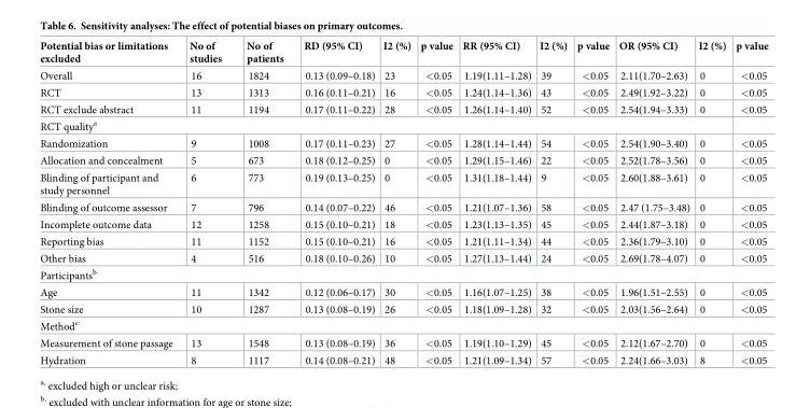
<table><thead><tr><td>Potential bias or limitations excluded</td><td>No of studies</td><td>No of patients</td><td>RD (95% CI)</td><td>I2 (%)</td><td>p value</td><td>RR (95% CI)</td><td>I2 (%)</td><td>p value</td><td>OR (95% CI)</td><td>I2 (%)</td><td>p value</td></tr></thead><tbody><tr><td>Overall</td><td>16</td><td>1824</td><td>0.13 (0.09–0.18)</td><td>23</td><td>&lt;0.05</td><td>1.19(1.11–1.28)</td><td>39</td><td>&lt;0.05</td><td>2.11(1.70–2.63)</td><td>0</td><td>&lt;0.05</td></tr><tr><td>RCT</td><td>13</td><td>1313</td><td>0.16 (0.11–0.21)</td><td>16</td><td>&lt;0.05</td><td>1.24(1.14–1.36)</td><td>43</td><td>&lt;0.05</td><td>2.49(1.92–3.22)</td><td>0</td><td>&lt;0.05</td></tr><tr><td>RCT exclude abstract</td><td>11</td><td>1194</td><td>0.17 (0.11–0.22)</td><td>28</td><td>&lt;0.05</td><td>1.26(1.14–1.40)</td><td>52</td><td>&lt;0.05</td><td>2.54(1.94–3.33)</td><td>0</td><td>&lt;0.05</td></tr><tr><td colspan="12">RCT quality<sup>a</sup></td></tr><tr><td>Randomization</td><td>9</td><td>1008</td><td>0.17 (0.11–0.23)</td><td>27</td><td>&lt;0.05</td><td>1.28(1.14–1.44)</td><td>54</td><td>&lt;0.05</td><td>2.54(1.90–3.40)</td><td>0</td><td>&lt;0.05</td></tr><tr><td>Allocation and concealment</td><td>5</td><td>673</td><td>0.18 (0.12–0.25)</td><td>0</td><td>&lt;0.05</td><td>1.29(1.15–1.46)</td><td>22</td><td>&lt;0.05</td><td>2.52(1.78–3.56)</td><td>0</td><td>&lt;0.05</td></tr><tr><td>Blinding of participant and study personnel</td><td>6</td><td>773</td><td>0.19 (0.13–0.25)</td><td>0</td><td>&lt;0.05</td><td>1.31(1.18–1.44)</td><td>9</td><td>&lt;0.05</td><td>2.60(1.88–3.61)</td><td>0</td><td>&lt;0.05</td></tr><tr><td>Blinding of outcome assessor</td><td>7</td><td>796</td><td>0.14 (0.07–0.22)</td><td>46</td><td>&lt;0.05</td><td>1.21(1.07–1.36)</td><td>58</td><td>&lt;0.05</td><td>2.47 (1.75–3.48)</td><td>0</td><td>&lt;0.05</td></tr><tr><td>Incomplete outcome data</td><td>12</td><td>1258</td><td>0.15 (0.10–0.21)</td><td>18</td><td>&lt;0.05</td><td>1.23(1.13–1.35)</td><td>45</td><td>&lt;0.05</td><td>2.44(1.87–3.18)</td><td>0</td><td>&lt;0.05</td></tr><tr><td>Reporting bias</td><td>11</td><td>1152</td><td>0.15 (0.10–0.21)</td><td>16</td><td>&lt;0.05</td><td>1.21(1.11–1.34)</td><td>44</td><td>&lt;0.05</td><td>2.36(1.79–3.10)</td><td>0</td><td>&lt;0.05</td></tr><tr><td>Other bias</td><td>4</td><td>516</td><td>0.18 (0.10–0.26)</td><td>10</td><td>&lt;0.05</td><td>1.27(1.13–1.44)</td><td>24</td><td>&lt;0.05</td><td>2.69(1.78–4.07)</td><td>0</td><td>&lt;0.05</td></tr><tr><td colspan="12">Participants<sup>b</sup></td></tr><tr><td>Age</td><td>11</td><td>1342</td><td>0.12 (0.06–0.17)</td><td>30</td><td>&lt;0.05</td><td>1.16(1.07–1.25)</td><td>38</td><td>&lt;0.05</td><td>1.96(1.51–2.55)</td><td>0</td><td>&lt;0.05</td></tr><tr><td>Stone size</td><td>10</td><td>1287</td><td>0.13 (0.08–0.19)</td><td>26</td><td>&lt;0.05</td><td>1.18(1.09–1.28)</td><td>32</td><td>&lt;0.05</td><td>2.03(1.56–2.64)</td><td>0</td><td>&lt;0.05</td></tr><tr><td colspan="12">Method<sup>c</sup></td></tr><tr><td>Measurement of stone passage</td><td>13</td><td>1548</td><td>0.13 (0.08–0.19)</td><td>36</td><td>&lt;0.05</td><td>1.19(1.10–1.29)</td><td>45</td><td>&lt;0.05</td><td>2.12(1.67–2.70)</td><td>0</td><td>&lt;0.05</td></tr><tr><td>Hydration</td><td>8</td><td>1117</td><td>0.14 (0.08–0.21)</td><td>48</td><td>&lt;0.05</td><td>1.21(1.09–1.34)</td><td>57</td><td>&lt;0.05</td><td>2.24(1.66–3.03)</td><td>8</td><td>&lt;0.05</td></tr></tbody></table>